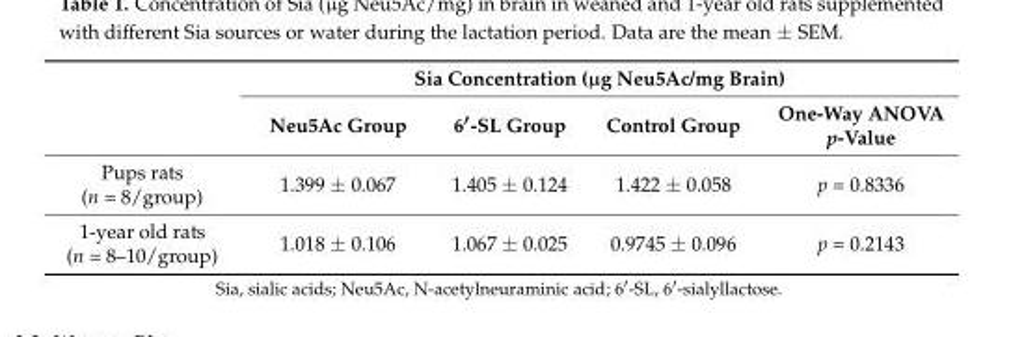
<table><thead><tr><td rowspan="2"></td><td colspan="4">Sia Concentration (µg Neu5Ac/mg Brain)</td></tr><tr><td>Neu5Ac Group</td><td>6′-SL Group</td><td>Control Group</td><td>One-Way ANOVA p-Value</td></tr></thead><tbody><tr><td>Pups rats (n = 8/group)</td><td>1.399 ± 0.067</td><td>1.405 ± 0.124</td><td>1.422 ± 0.058</td><td>p = 0.8336</td></tr><tr><td>1-year old rats (n = 8–10/group)</td><td>1.018 ± 0.106</td><td>1.067 ± 0.025</td><td>0.9745 ± 0.096</td><td>p = 0.2143</td></tr></tbody></table>